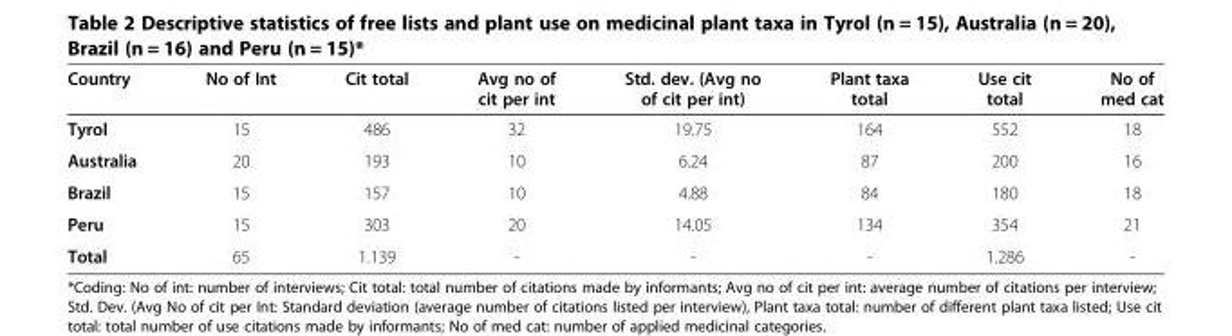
<table><thead><tr><td>Country</td><td>No of Int</td><td>Cit total</td><td>Avg no of cit per int</td><td>Std. dev. (Avg no of cit per int)</td><td>Plant taxa total</td><td>Use cit total</td><td>No of med cat</td></tr></thead><tbody><tr><td>Tyrol</td><td>15</td><td>486</td><td>32</td><td>19.75</td><td>164</td><td>552</td><td>18</td></tr><tr><td>Australia</td><td>20</td><td>193</td><td>10</td><td>6.24</td><td>87</td><td>200</td><td>16</td></tr><tr><td>Brazil</td><td>15</td><td>157</td><td>10</td><td>4.88</td><td>84</td><td>180</td><td>18</td></tr><tr><td>Peru</td><td>15</td><td>303</td><td>20</td><td>14.05</td><td>134</td><td>354</td><td>21</td></tr><tr><td>Total</td><td>65</td><td>1.139</td><td>-</td><td>-</td><td>-</td><td>1.286</td><td>-</td></tr></tbody></table>